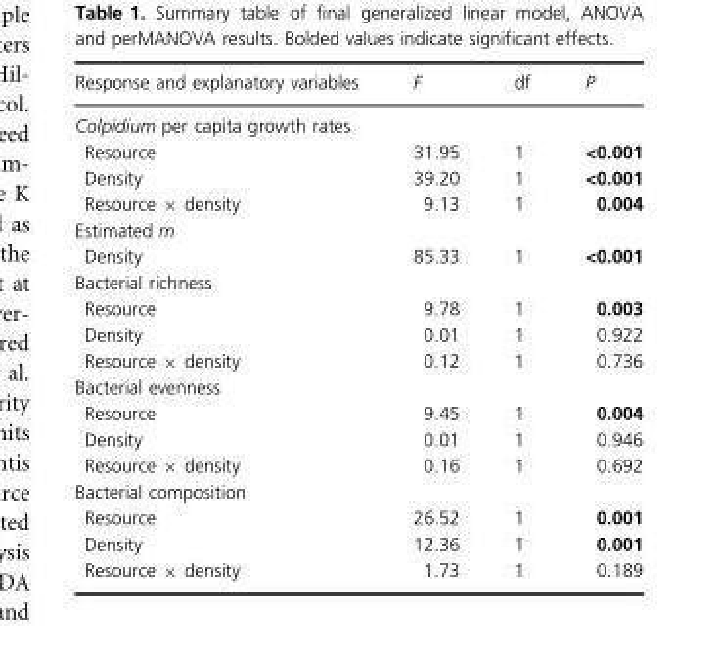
<table><thead><tr><td>Response and explanatory variables</td><td>F</td><td>df</td><td>P</td></tr></thead><tbody><tr><td colspan="4">Colpidium per capita growth rates</td></tr><tr><td>Resource</td><td>31.95</td><td>1</td><td>&lt;0.001</td></tr><tr><td>Density</td><td>39.20</td><td>1</td><td>&lt;0.001</td></tr><tr><td>Resource × density</td><td>9.13</td><td>1</td><td>0.004</td></tr><tr><td colspan="4">Estimated m</td></tr><tr><td>Density</td><td>85.33</td><td>1</td><td>&lt;0.001</td></tr><tr><td colspan="4">Bacterial richness</td></tr><tr><td>Resource</td><td>9.78</td><td>1</td><td>0.003</td></tr><tr><td>Density</td><td>0.01</td><td>1</td><td>0.922</td></tr><tr><td>Resource × density</td><td>0.12</td><td>1</td><td>0.736</td></tr><tr><td colspan="4">Bacterial evenness</td></tr><tr><td>Resource</td><td>9.45</td><td>1</td><td>0.004</td></tr><tr><td>Density</td><td>0.01</td><td>1</td><td>0.946</td></tr><tr><td>Resource × density</td><td>0.16</td><td>1</td><td>0.692</td></tr><tr><td colspan="4">Bacterial composition</td></tr><tr><td>Resource</td><td>26.52</td><td>1</td><td>0.001</td></tr><tr><td>Density</td><td>12.36</td><td>1</td><td>0.001</td></tr><tr><td>Resource × density</td><td>1.73</td><td>1</td><td>0.189</td></tr></tbody></table>